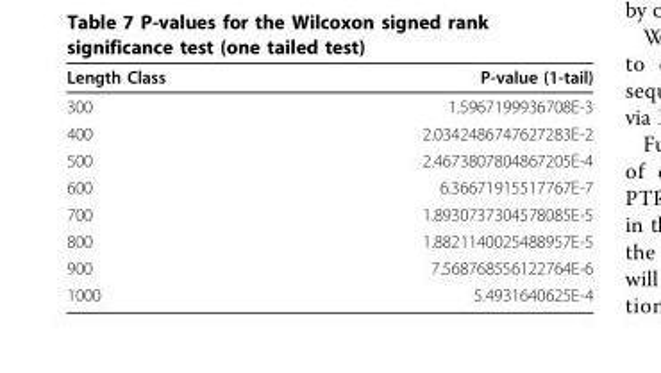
<table><thead><tr><td>Length Class</td><td>P-value (1-tail)</td></tr></thead><tbody><tr><td>300</td><td>1.5967199936708E-3</td></tr><tr><td>400</td><td>2.0342486747627283E-2</td></tr><tr><td>500</td><td>2.4673807804867205E-4</td></tr><tr><td>600</td><td>6.36671915517767E-7</td></tr><tr><td>700</td><td>1.8930737304578085E-5</td></tr><tr><td>800</td><td>1.8821140025488957E-5</td></tr><tr><td>900</td><td>7.568768556122764E-6</td></tr><tr><td>1000</td><td>5.4931640625E-4</td></tr></tbody></table>